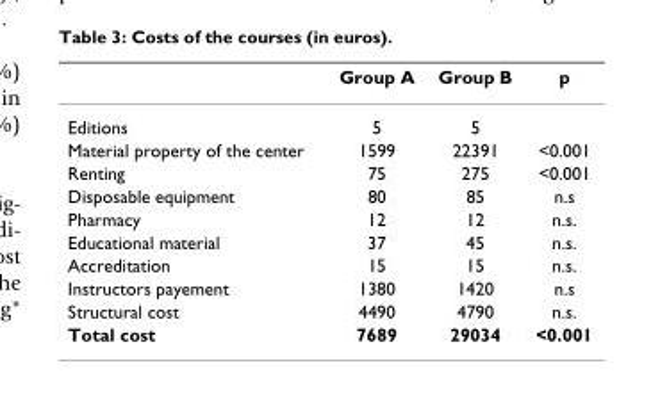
<table><thead><tr><td></td><td>Group A</td><td>Group B</td><td>p</td></tr></thead><tbody><tr><td>Editions</td><td>5</td><td>5</td><td></td></tr><tr><td>Material property of the center</td><td>1599</td><td>22391</td><td>&lt;0.001</td></tr><tr><td>Renting</td><td>75</td><td>275</td><td>&lt;0.001</td></tr><tr><td>Disposable equipment</td><td>80</td><td>85</td><td>n.s</td></tr><tr><td>Pharmacy</td><td>12</td><td>12</td><td>n.s.</td></tr><tr><td>Educational material</td><td>37</td><td>45</td><td>n.s.</td></tr><tr><td>Accreditation</td><td>15</td><td>15</td><td>n.s.</td></tr><tr><td>Instructors payement</td><td>1380</td><td>1420</td><td>n.s</td></tr><tr><td>Structural cost</td><td>4490</td><td>4790</td><td>n.s.</td></tr><tr><td>Total cost</td><td>7689</td><td>29034</td><td>&lt;0.001</td></tr></tbody></table>